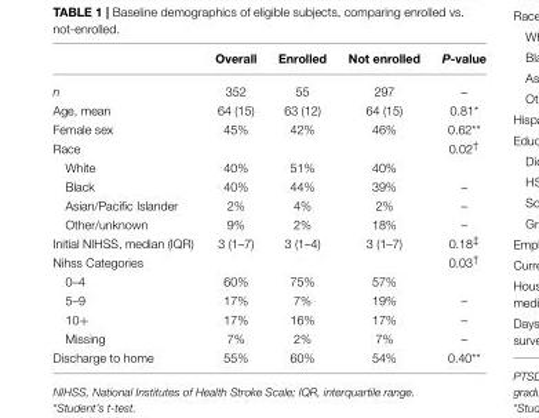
<table><thead><tr><td></td><td>Overall</td><td>Enrolled</td><td>Not enrolled</td><td>P-value</td></tr></thead><tbody><tr><td>n</td><td>352</td><td>55</td><td>297</td><td>–</td></tr><tr><td>Age, mean</td><td>64 (15)</td><td>63 (12)</td><td>64 (15)</td><td>0.81*</td></tr><tr><td>Female sex</td><td>45%</td><td>42%</td><td>46%</td><td>0.62**</td></tr><tr><td>Race</td><td></td><td></td><td></td><td>0.02<sup>†</sup></td></tr><tr><td>White</td><td>40%</td><td>51%</td><td>40%</td><td></td></tr><tr><td>Black</td><td>40%</td><td>44%</td><td>39%</td><td>–</td></tr><tr><td>Asian/Pacific Islander</td><td>2%</td><td>4%</td><td>2%</td><td>–</td></tr><tr><td>Other/unknown</td><td>9%</td><td>2%</td><td>18%</td><td>–</td></tr><tr><td>Initial NIHSS, median (IQR)</td><td>3 (1–7)</td><td>3 (1–4)</td><td>3 (1–7)</td><td>0.18<sup>‡</sup></td></tr><tr><td>Nihss Categories</td><td></td><td></td><td></td><td>0.03<sup>†</sup></td></tr><tr><td>0–4</td><td>60%</td><td>75%</td><td>57%</td><td></td></tr><tr><td>5–9</td><td>17%</td><td>7%</td><td>19%</td><td>–</td></tr><tr><td>10+</td><td>17%</td><td>16%</td><td>17%</td><td>–</td></tr><tr><td>Missing</td><td>7%</td><td>2%</td><td>7%</td><td>–</td></tr><tr><td>Discharge to home</td><td>55%</td><td>60%</td><td>54%</td><td>0.40**</td></tr></tbody></table>